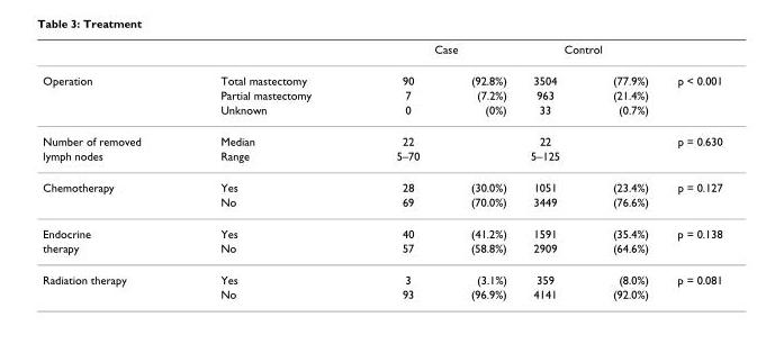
<table><thead><tr><td rowspan="2">Operation</td><td rowspan="2">Total mastectomy</td><td colspan="2">Case</td><td colspan="2">Control</td><td rowspan="2">p &lt; 0.001</td></tr><tr><td>90</td><td>(92.8%)</td><td>3504</td><td>(77.9%)</td></tr></thead><tbody><tr><td></td><td>Partial mastectomy</td><td>7</td><td>(7.2%)</td><td>963</td><td>(21.4%)</td><td></td></tr><tr><td></td><td>Unknown</td><td>0</td><td>(0%)</td><td>33</td><td>(0.7%)</td><td></td></tr><tr><td>Number of removed</td><td>Median</td><td>22</td><td></td><td>22</td><td></td><td>p = 0.630</td></tr><tr><td>lymph nodes</td><td>Range</td><td>5–70</td><td></td><td>5–125</td><td></td><td></td></tr><tr><td rowspan="2">Chemotherapy</td><td>Yes</td><td>28</td><td>(30.0%)</td><td>1051</td><td>(23.4%)</td><td>p = 0.127</td></tr><tr><td>No</td><td>69</td><td>(70.0%)</td><td>3449</td><td>(76.6%)</td><td></td></tr><tr><td>Endocrine</td><td>Yes</td><td>40</td><td>(41.2%)</td><td>1591</td><td>(35.4%)</td><td>p = 0.138</td></tr><tr><td>therapy</td><td>No</td><td>57</td><td>(58.8%)</td><td>2909</td><td>(64.6%)</td><td></td></tr><tr><td rowspan="2">Radiation therapy</td><td>Yes</td><td>3</td><td>(3.1%)</td><td>359</td><td>(8.0%)</td><td>p = 0.081</td></tr><tr><td>No</td><td>93</td><td>(96.9%)</td><td>4141</td><td>(92.0%)</td><td></td></tr></tbody></table>